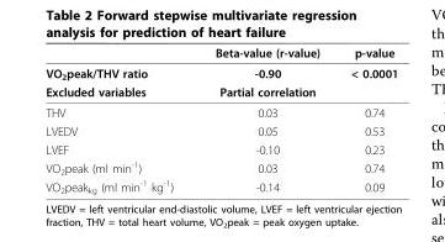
<table><thead><tr><td></td><td>Beta-value (r-value)</td><td>p-value</td></tr></thead><tbody><tr><td>VO<sub>2</sub>peak/THV ratio</td><td>-0.90</td><td>&lt; 0.0001</td></tr><tr><td>Excluded variables</td><td>Partial correlation</td><td></td></tr><tr><td>THV</td><td>0.03</td><td>0.74</td></tr><tr><td>LVEDV</td><td>0.05</td><td>0.53</td></tr><tr><td>LVEF</td><td>-0.10</td><td>0.23</td></tr><tr><td>VO<sub>2</sub>peak (ml min<sup>-1</sup>)</td><td>0.03</td><td>0.74</td></tr><tr><td>VO<sub>2</sub>peak<sub>kg</sub> (ml min<sup>-1</sup> kg<sup>-1</sup>)</td><td>-0.14</td><td>0.09</td></tr></tbody></table>